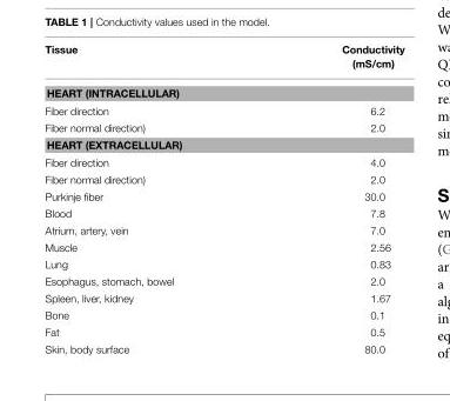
<table><thead><tr><td>Tissue</td><td>Conductivity (mS/cm)</td></tr></thead><tbody><tr><td colspan="2">HEART (INTRACELLULAR)</td></tr><tr><td>Fiber direction</td><td>6.2</td></tr><tr><td>Fiber normal direction)</td><td>2.0</td></tr><tr><td colspan="2">HEART (EXTRACELLULAR)</td></tr><tr><td>Fiber direction</td><td>4.0</td></tr><tr><td>Fiber normal direction)</td><td>2.0</td></tr><tr><td>Purkinje fiber</td><td>30.0</td></tr><tr><td>Blood</td><td>7.8</td></tr><tr><td>Atrium, artery, vein</td><td>7.0</td></tr><tr><td>Muscle</td><td>2.56</td></tr><tr><td>Lung</td><td>0.83</td></tr><tr><td>Esophagus, stomach, bowel</td><td>2.0</td></tr><tr><td>Spleen, liver, kidney</td><td>1.67</td></tr><tr><td>Bone</td><td>0.1</td></tr><tr><td>Fat</td><td>0.5</td></tr><tr><td>Skin, body surface</td><td>80.0</td></tr></tbody></table>